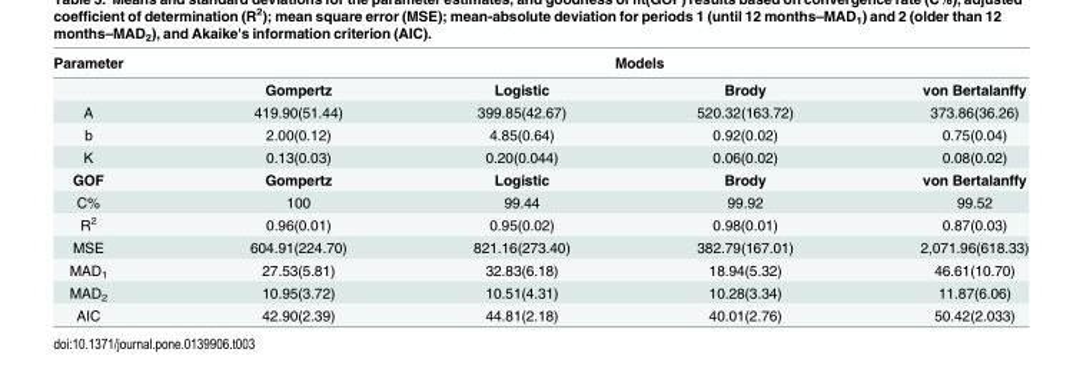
<table><thead><tr><td rowspan="2">Parameter</td><td colspan="4">Models</td></tr><tr><td>Gompertz</td><td>Logistic</td><td>Brody</td><td>von Bertalanffy</td></tr></thead><tbody><tr><td>A</td><td>419.90(51.44)</td><td>399.85(42.67)</td><td>520.32(163.72)</td><td>373.86(36.26)</td></tr><tr><td>b</td><td>2.00(0.12)</td><td>4.85(0.64)</td><td>0.92(0.02)</td><td>0.75(0.04)</td></tr><tr><td>K</td><td>0.13(0.03)</td><td>0.20(0.044)</td><td>0.06(0.02)</td><td>0.08(0.02)</td></tr><tr><td>GOF</td><td>Gompertz</td><td>Logistic</td><td>Brody</td><td>von Bertalanffy</td></tr><tr><td>C%</td><td>100</td><td>99.44</td><td>99.92</td><td>99.52</td></tr><tr><td>R<sup>2</sup></td><td>0.96(0.01)</td><td>0.95(0.02)</td><td>0.98(0.01)</td><td>0.87(0.03)</td></tr><tr><td>MSE</td><td>604.91(224.70)</td><td>821.16(273.40)</td><td>382.79(167.01)</td><td>2,071.96(618.33)</td></tr><tr><td>MAD<sub>1</sub></td><td>27.53(5.81)</td><td>32.83(6.18)</td><td>18.94(5.32)</td><td>46.61(10.70)</td></tr><tr><td>MAD<sub>2</sub></td><td>10.95(3.72)</td><td>10.51(4.31)</td><td>10.28(3.34)</td><td>11.87(6.06)</td></tr><tr><td>AIC</td><td>42.90(2.39)</td><td>44.81(2.18)</td><td>40.01(2.76)</td><td>50.42(2.033)</td></tr></tbody></table>